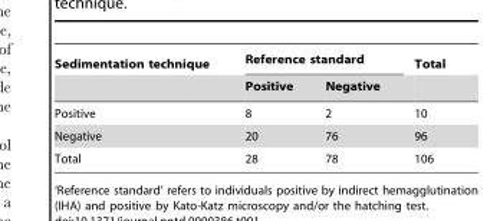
<table><thead><tr><td rowspan="2">Sedimentation technique</td><td colspan="2">Reference standard</td><td rowspan="2">Total</td></tr><tr><td>Positive</td><td>Negative</td></tr></thead><tbody><tr><td>Positive</td><td>8</td><td>2</td><td>10</td></tr><tr><td>Negative</td><td>20</td><td>76</td><td>96</td></tr><tr><td>Total</td><td>28</td><td>78</td><td>106</td></tr></tbody></table>